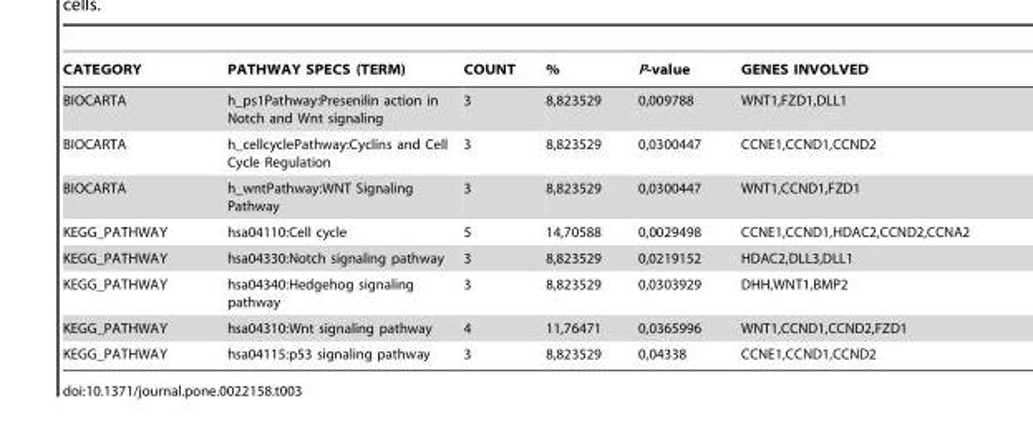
<table><thead><tr><td>CATEGORY</td><td>PATHWAY SPECS (TERM)</td><td>COUNT</td><td>%</td><td>P-value</td><td>GENES INVOLVED</td></tr></thead><tbody><tr><td>BIOCARTA</td><td>h_ps1Pathway:Presenilin action in Notch and Wnt signaling</td><td>3</td><td>8,823529</td><td>0,009788</td><td>WNT1,FZD1,DLL1</td></tr><tr><td>BIOCARTA</td><td>h_cellcyclePathway:Cyclins and Cell Cycle Regulation</td><td>3</td><td>8,823529</td><td>0,0300447</td><td>CCNE1,CCND1,CCND2</td></tr><tr><td>BIOCARTA</td><td>h_wntPathway:WNT Signaling Pathway</td><td>3</td><td>8,823529</td><td>0,0300447</td><td>WNT1,CCND1,FZD1</td></tr><tr><td>KEGG_PATHWAY</td><td>hsa04110:Cell cycle</td><td>5</td><td>14,70588</td><td>0,0029498</td><td>CCNE1,CCND1,HDAC2,CCND2,CCNA2</td></tr><tr><td>KEGG_PATHWAY</td><td>hsa04330:Notch signaling pathway</td><td>3</td><td>8,823529</td><td>0,0219152</td><td>HDAC2,DLL3,DLL1</td></tr><tr><td>KEGG_PATHWAY</td><td>hsa04340:Hedgehog signaling pathway</td><td>3</td><td>8,823529</td><td>0,0303929</td><td>DHH,WNT1,BMP2</td></tr><tr><td>KEGG_PATHWAY</td><td>hsa04310:Wnt signaling pathway</td><td>4</td><td>11,76471</td><td>0,0365996</td><td>WNT1,CCND1,CCND2,FZD1</td></tr><tr><td>KEGG_PATHWAY</td><td>hsa04115:p53 signaling pathway</td><td>3</td><td>8,823529</td><td>0,04338</td><td>CCNE1,CCND1,CCND2</td></tr></tbody></table>